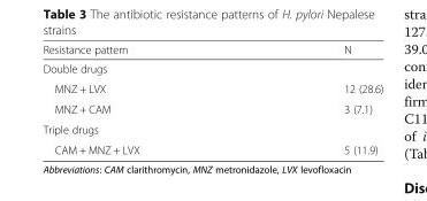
<table><thead><tr><td>Resistance pattern</td><td>N</td></tr></thead><tbody><tr><td colspan="2">Double drugs</td></tr><tr><td>MNZ + LVX</td><td>12 (28.6)</td></tr><tr><td>MNZ + CAM</td><td>3 (7.1)</td></tr><tr><td colspan="2">Triple drugs</td></tr><tr><td>CAM + MNZ + LVX</td><td>5 (11.9)</td></tr></tbody></table>